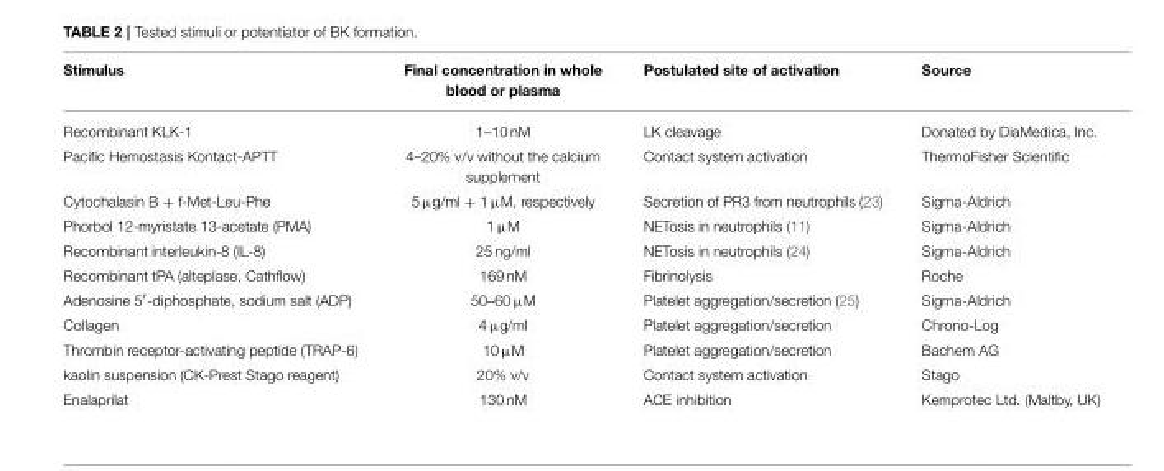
<table><thead><tr><td>Stimulus</td><td>Final concentration in whole blood or plasma</td><td>Postulated site of activation</td><td>Source</td></tr></thead><tbody><tr><td>Recombinant KLK-1</td><td>1–10 nM</td><td>LK cleavage</td><td>Donated by DiaMedica, Inc.</td></tr><tr><td>Pacific Hemostasis Kontact-APTT</td><td>4–20% v/v without the calcium supplement</td><td>Contact system activation</td><td>ThermoFisher Scientific</td></tr><tr><td>Cytochalasin B + f-Met-Leu-Phe</td><td>5 µg/ml + 1 µM, respectively</td><td>Secretion of PR3 from neutrophils (23)</td><td>Sigma-Aldrich</td></tr><tr><td>Phorbol 12-myristate 13-acetate (PMA)</td><td>1 µM</td><td>NETosis in neutrophils (11)</td><td>Sigma-Aldrich</td></tr><tr><td>Recombinant interleukin-8 (IL-8)</td><td>25 ng/ml</td><td>NETosis in neutrophils (24)</td><td>Sigma-Aldrich</td></tr><tr><td>Recombinant tPA (alteplase, Cathflow)</td><td>169 nM</td><td>Fibrinolysis</td><td>Roche</td></tr><tr><td>Adenosine 5′-diphosphate, sodium salt (ADP)</td><td>50–60 µM</td><td>Platelet aggregation/secretion (25)</td><td>Sigma-Aldrich</td></tr><tr><td>Collagen</td><td>4 µg/ml</td><td>Platelet aggregation/secretion</td><td>Chrono-Log</td></tr><tr><td>Thrombin receptor-activating peptide (TRAP-6)</td><td>10 µM</td><td>Platelet aggregation/secretion</td><td>Bachem AG</td></tr><tr><td>kaolin suspension (CK-Prest Stago reagent)</td><td>20% v/v</td><td>Contact system activation</td><td>Stago</td></tr><tr><td>Enalaprilat</td><td>130 nM</td><td>ACE inhibition</td><td>Kemprotec Ltd. (Maltby, UK)</td></tr></tbody></table>